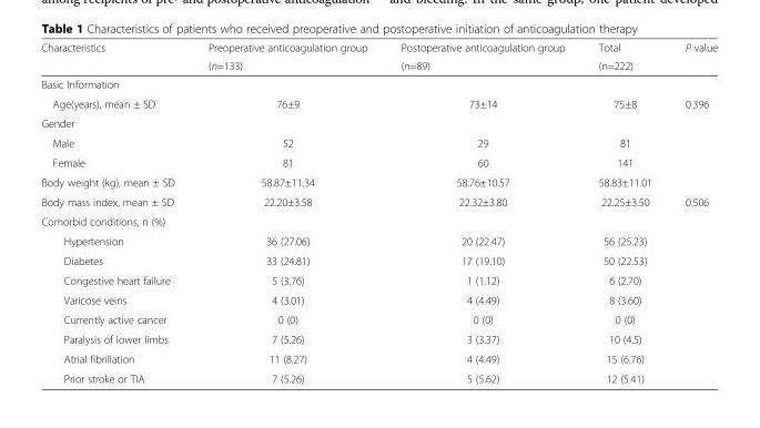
<table><thead><tr><td rowspan="2">Characteristics</td><td rowspan="2">Preoperative anticoagulation group (n=133)</td><td rowspan="2">Postoperative anticoagulation group (n=89)</td><td rowspan="2">Total (n=222)</td><td rowspan="2">P value</td></tr><tr></tr></thead><tbody><tr><td colspan="5">Basic Information</td></tr><tr><td>Age(years), mean ± SD</td><td>76±9</td><td>73±14</td><td>75±8</td><td>0.396</td></tr><tr><td colspan="5">Gender</td></tr><tr><td>Male</td><td>52</td><td>29</td><td>81</td><td></td></tr><tr><td>Female</td><td>81</td><td>60</td><td>141</td><td></td></tr><tr><td>Body weight (kg), mean ± SD</td><td>58.87±11.34</td><td>58.76±10.57</td><td>58.83±11.01</td><td></td></tr><tr><td>Body mass index, mean ± SD</td><td>22.20±3.58</td><td>22.32±3.80</td><td>22.25±3.50</td><td>0.506</td></tr><tr><td colspan="5">Comorbid conditions, n (%)</td></tr><tr><td>Hypertension</td><td>36 (27.06)</td><td>20 (22.47)</td><td>56 (25.23)</td><td></td></tr><tr><td>Diabetes</td><td>33 (24.81)</td><td>17 (19.10)</td><td>50 (22.53)</td><td></td></tr><tr><td>Congestive heart failure</td><td>5 (3.76)</td><td>1 (1.12)</td><td>6 (2.70)</td><td></td></tr><tr><td>Varicose veins</td><td>4 (3.01)</td><td>4 (4.49)</td><td>8 (3.60)</td><td></td></tr><tr><td>Currently active cancer</td><td>0 (0)</td><td>0 (0)</td><td>0 (0)</td><td></td></tr><tr><td>Paralysis of lower limbs</td><td>7 (5.26)</td><td>3 (3.37)</td><td>10 (4.5)</td><td></td></tr><tr><td>Atrial fibrillation</td><td>11 (8.27)</td><td>4 (4.49)</td><td>15 (6.76)</td><td></td></tr><tr><td>Prior stroke or TIA</td><td>7 (5.26)</td><td>5 (5.62)</td><td>12 (5.41)</td><td></td></tr></tbody></table>